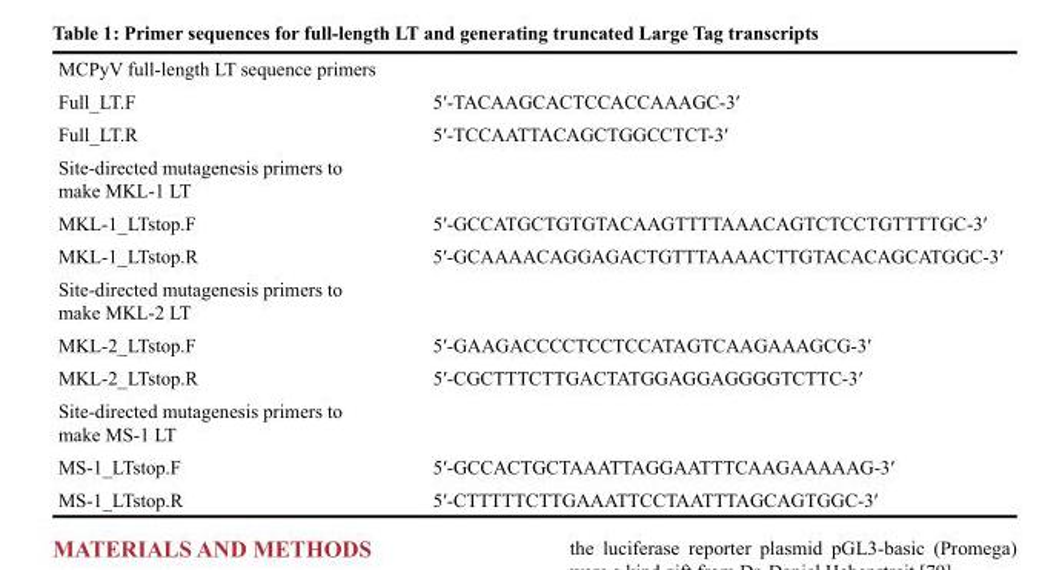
<table><tbody><tr><td colspan="2">MCPyV full-length LT sequence primers</td></tr><tr><td>Full_LT.F</td><td>5′-TACAAGCACTCCACCAAAGC-3′</td></tr><tr><td>Full_LT.R</td><td>5′-TCCAATTACAGCTGGCCTCT-3′</td></tr><tr><td colspan="2">Site-directed mutagenesis primers to make MKL-1 LT</td></tr><tr><td>MKL-1_LTstop.F</td><td>5′-GCCATGCTGTGTACAAGTTTTAAACAGTCTCCTGTTTTGC-3′</td></tr><tr><td>MKL-1_LTstop.R</td><td>5′-GCAAAACAGGAGACTGTTTAAAACTTGTACACAGCATGGC-3′</td></tr><tr><td colspan="2">Site-directed mutagenesis primers to make MKL-2 LT</td></tr><tr><td>MKL-2_LTstop.F</td><td>5′-GAAGACCCCTCCTCCATAGTCAAGAAAGCG-3′</td></tr><tr><td>MKL-2_LTstop.R</td><td>5′-CGCTTTCTTGACTATGGAGGAGGGGTCTTC-3′</td></tr><tr><td colspan="2">Site-directed mutagenesis primers to make MS-1 LT</td></tr><tr><td>MS-1_LTstop.F</td><td>5′-GCCACTGCTAAATTAGGAATTTCAAGAAAAAG-3′</td></tr><tr><td>MS-1_LTstop.R</td><td>5′-CTTTTTCTTGAAATTCCTAATTTAGCAGTGGC-3′</td></tr></tbody></table>